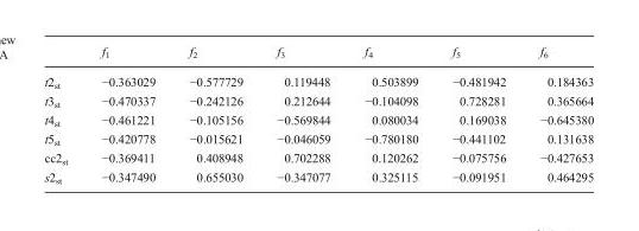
<table><thead><tr><td></td><td>f<sub>1</sub></td><td>f<sub>2</sub></td><td>f<sub>3</sub></td><td>f<sub>4</sub></td><td>f<sub>5</sub></td><td>f<sub>6</sub></td></tr></thead><tbody><tr><td>t2<sub>st</sub></td><td>−0.363029</td><td>−0.577729</td><td>0.119448</td><td>0.503899</td><td>−0.481942</td><td>0.184363</td></tr><tr><td>t3<sub>st</sub></td><td>−0.470337</td><td>−0.242126</td><td>0.212644</td><td>−0.104098</td><td>0.728281</td><td>0.365664</td></tr><tr><td>t4<sub>st</sub></td><td>−0.461221</td><td>−0.105156</td><td>−0.569844</td><td>0.080034</td><td>0.169038</td><td>−0.645380</td></tr><tr><td>t5<sub>st</sub></td><td>−0.420778</td><td>−0.015621</td><td>−0.046059</td><td>−0.780180</td><td>−0.441102</td><td>0.131638</td></tr><tr><td>cc2<sub>st</sub></td><td>−0.369411</td><td>0.408948</td><td>0.702288</td><td>0.120262</td><td>−0.075756</td><td>−0.427653</td></tr><tr><td>s2<sub>st</sub></td><td>−0.347490</td><td>0.655030</td><td>−0.347077</td><td>0.325115</td><td>−0.091951</td><td>0.464295</td></tr></tbody></table>